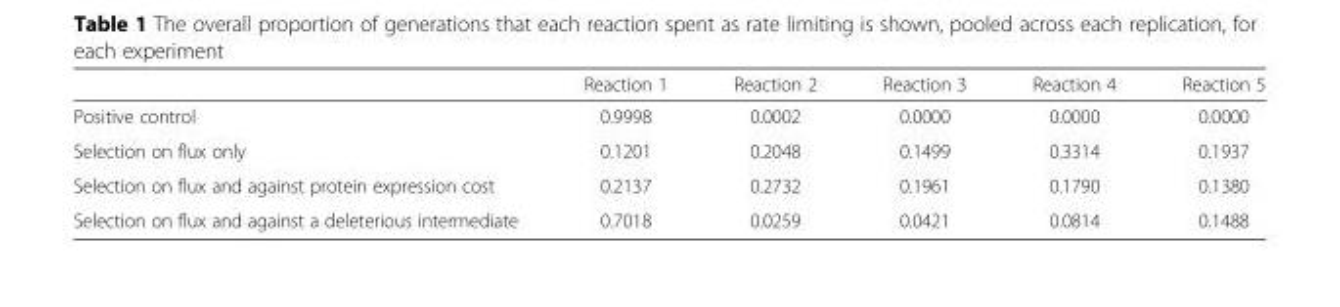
<table><thead><tr><td></td><td>Reaction 1</td><td>Reaction 2</td><td>Reaction 3</td><td>Reaction 4</td><td>Reaction 5</td></tr></thead><tbody><tr><td>Positive control</td><td>0.9998</td><td>0.0002</td><td>0.0000</td><td>0.0000</td><td>0.0000</td></tr><tr><td>Selection on flux only</td><td>0.1201</td><td>0.2048</td><td>0.1499</td><td>0.3314</td><td>0.1937</td></tr><tr><td>Selection on flux and against protein expression cost</td><td>0.2137</td><td>0.2732</td><td>0.1961</td><td>0.1790</td><td>0.1380</td></tr><tr><td>Selection on flux and against a deleterious intermediate</td><td>0.7018</td><td>0.0259</td><td>0.0421</td><td>0.0814</td><td>0.1488</td></tr></tbody></table>